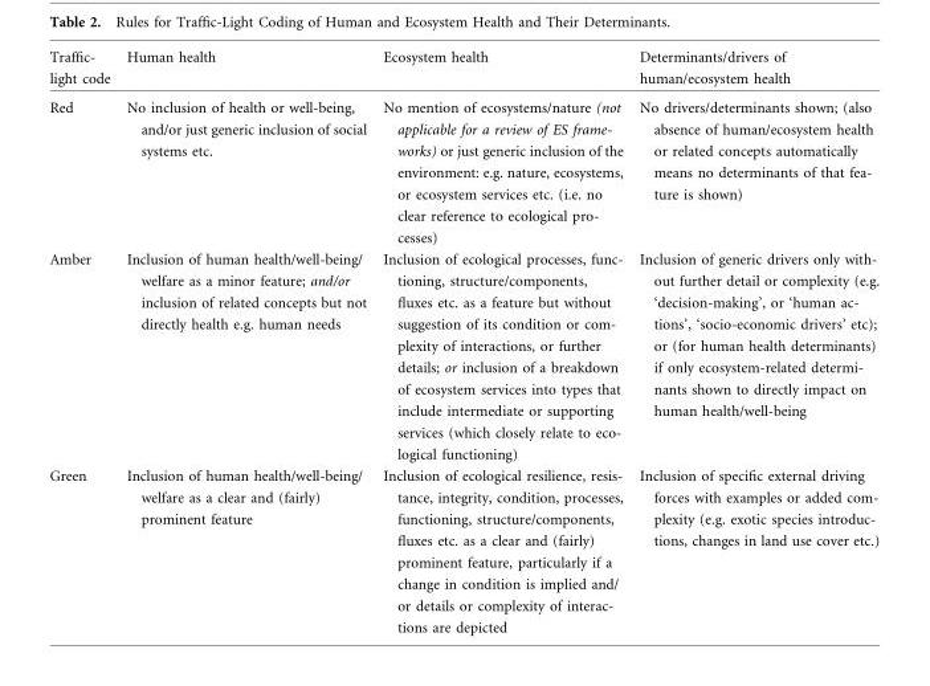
<table><thead><tr><td>Traffic- light code</td><td>Human health</td><td>Ecosystem health</td><td>Determinants/drivers of human/ecosystem health</td></tr></thead><tbody><tr><td>Red</td><td>No inclusion of health or well-being, and/or just generic inclusion of social systems etc.</td><td>No mention of ecosystems/nature (not applicable for a review of ES frame- works) or just generic inclusion of the environment: e.g. nature, ecosystems, or ecosystem services etc. (i.e. no clear reference to ecological pro- cesses)</td><td>No drivers/determinants shown; (also absence of human/ecosystem health or related concepts automatically means no determinants of that fea- ture is shown)</td></tr><tr><td>Amber</td><td>Inclusion of human health/well-being/ welfare as a minor feature; and/or inclusion of related concepts but not directly health e.g. human needs</td><td>Inclusion of ecological processes, func- tioning, structure/components, fluxes etc. as a feature but without suggestion of its condition or com- plexity of interactions, or further details; or inclusion of a breakdown of ecosystem services into types that include intermediate or supporting services (which closely relate to eco- logical functioning)</td><td>Inclusion of generic drivers only with- out further detail or complexity (e.g. ‘decision-making’, or ‘human ac- tions’, ‘socio-economic drivers’ etc); or (for human health determinants) if only ecosystem-related determi- nants shown to directly impact on human health/well-being</td></tr><tr><td>Green</td><td>Inclusion of human health/well-being/ welfare as a clear and (fairly) prominent feature</td><td>Inclusion of ecological resilience, resis- tance, integrity, condition, processes, functioning, structure/components, fluxes etc. as a clear and (fairly) prominent feature, particularly if a change in condition is implied and/ or details or complexity of interac- tions are depicted</td><td>Inclusion of specific external driving forces with examples or added com- plexity (e.g. exotic species introduc- tions, changes in land use cover etc.)</td></tr></tbody></table>